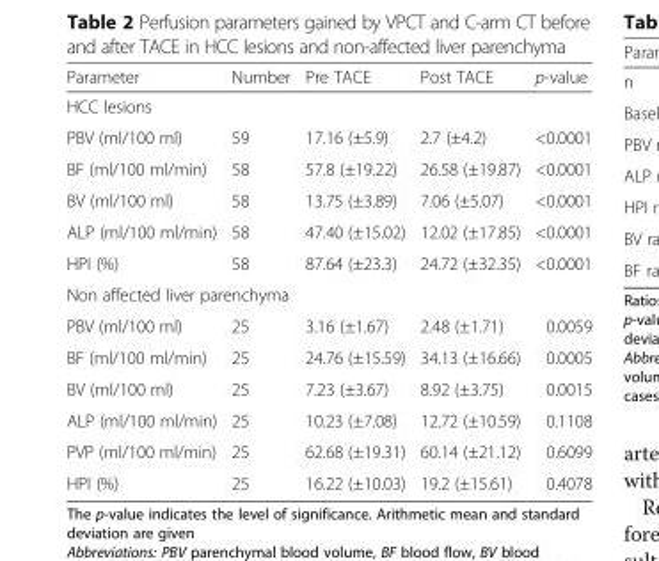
<table><thead><tr><td>Parameter</td><td>Number</td><td>Pre TACE</td><td>Post TACE</td><td>p-value</td></tr></thead><tbody><tr><td colspan="5">HCC lesions</td></tr><tr><td>PBV (ml/100 ml)</td><td>59</td><td>17.16 (±5.9)</td><td>2.7 (±4.2)</td><td>&lt;0.0001</td></tr><tr><td>BF (ml/100 ml/min)</td><td>58</td><td>57.8 (±19.22)</td><td>26.58 (±19.87)</td><td>&lt;0.0001</td></tr><tr><td>BV (ml/100 ml)</td><td>58</td><td>13.75 (±3.89)</td><td>7.06 (±5.07)</td><td>&lt;0.0001</td></tr><tr><td>ALP (ml/100 ml/min)</td><td>58</td><td>47.40 (±15.02)</td><td>12.02 (±17.85)</td><td>&lt;0.0001</td></tr><tr><td>HPI (%)</td><td>58</td><td>87.64 (±23.3)</td><td>24.72 (±32.35)</td><td>&lt;0.0001</td></tr><tr><td colspan="5">Non affected liver parenchyma</td></tr><tr><td>PBV (ml/100 ml)</td><td>25</td><td>3.16 (±1.67)</td><td>2.48 (±1.71)</td><td>0.0059</td></tr><tr><td>BF (ml/100 ml/min)</td><td>25</td><td>24.76 (±15.59)</td><td>34.13 (±16.66)</td><td>0.0005</td></tr><tr><td>BV (ml/100 ml)</td><td>25</td><td>7.23 (±3.67)</td><td>8.92 (±3.75)</td><td>0.0015</td></tr><tr><td>ALP (ml/100 ml/min)</td><td>25</td><td>10.23 (±7.08)</td><td>12.72 (±10.59)</td><td>0.1108</td></tr><tr><td>PVP (ml/100 ml/min)</td><td>25</td><td>62.68 (±19.31)</td><td>60.14 (±21.12)</td><td>0.6099</td></tr><tr><td>HPI (%)</td><td>25</td><td>16.22 (±10.03)</td><td>19.2 (±15.61)</td><td>0.4078</td></tr></tbody></table>